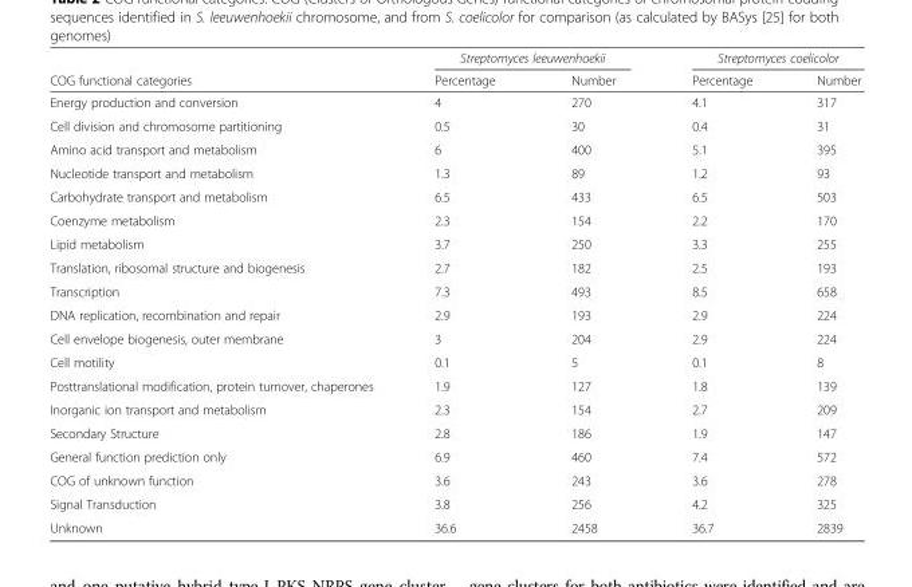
<table><thead><tr><td rowspan="2">COG functional categories</td><td colspan="2">Streptomyces leeuwenhoekii</td><td colspan="2">Streptomyces coelicolor</td></tr><tr><td>Percentage</td><td>Number</td><td>Percentage</td><td>Number</td></tr></thead><tbody><tr><td>Energy production and conversion</td><td>4</td><td>270</td><td>4.1</td><td>317</td></tr><tr><td>Cell division and chromosome partitioning</td><td>0.5</td><td>30</td><td>0.4</td><td>31</td></tr><tr><td>Amino acid transport and metabolism</td><td>6</td><td>400</td><td>5.1</td><td>395</td></tr><tr><td>Nucleotide transport and metabolism</td><td>1.3</td><td>89</td><td>1.2</td><td>93</td></tr><tr><td>Carbohydrate transport and metabolism</td><td>6.5</td><td>433</td><td>6.5</td><td>503</td></tr><tr><td>Coenzyme metabolism</td><td>2.3</td><td>154</td><td>2.2</td><td>170</td></tr><tr><td>Lipid metabolism</td><td>3.7</td><td>250</td><td>3.3</td><td>255</td></tr><tr><td>Translation, ribosomal structure and biogenesis</td><td>2.7</td><td>182</td><td>2.5</td><td>193</td></tr><tr><td>Transcription</td><td>7.3</td><td>493</td><td>8.5</td><td>658</td></tr><tr><td>DNA replication, recombination and repair</td><td>2.9</td><td>193</td><td>2.9</td><td>224</td></tr><tr><td>Cell envelope biogenesis, outer membrane</td><td>3</td><td>204</td><td>2.9</td><td>224</td></tr><tr><td>Cell motility</td><td>0.1</td><td>5</td><td>0.1</td><td>8</td></tr><tr><td>Posttranslational modification, protein turnover, chaperones</td><td>1.9</td><td>127</td><td>1.8</td><td>139</td></tr><tr><td>Inorganic ion transport and metabolism</td><td>2.3</td><td>154</td><td>2.7</td><td>209</td></tr><tr><td>Secondary Structure</td><td>2.8</td><td>186</td><td>1.9</td><td>147</td></tr><tr><td>General function prediction only</td><td>6.9</td><td>460</td><td>7.4</td><td>572</td></tr><tr><td>COG of unknown function</td><td>3.6</td><td>243</td><td>3.6</td><td>278</td></tr><tr><td>Signal Transduction</td><td>3.8</td><td>256</td><td>4.2</td><td>325</td></tr><tr><td>Unknown</td><td>36.6</td><td>2458</td><td>36.7</td><td>2839</td></tr></tbody></table>